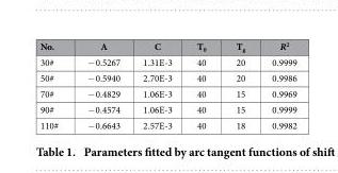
<table><thead><tr><td>No.</td><td>A</td><td>C</td><td>T<sub>0</sub></td><td>T<sub>g</sub></td><td>R<sup>2</sup></td></tr></thead><tbody><tr><td>30#</td><td>− 0.5267</td><td>1.31E-3</td><td>40</td><td>20</td><td>0.9999</td></tr><tr><td>50#</td><td>− 0.5940</td><td>2.70E-3</td><td>40</td><td>20</td><td>0.9986</td></tr><tr><td>70#</td><td>− 0.4829</td><td>1.06E-3</td><td>40</td><td>15</td><td>0.9969</td></tr><tr><td>90#</td><td>− 0.4574</td><td>1.06E-3</td><td>40</td><td>15</td><td>0.9999</td></tr><tr><td>110#</td><td>− 0.6643</td><td>2.57E-3</td><td>40</td><td>18</td><td>0.9982</td></tr></tbody></table>